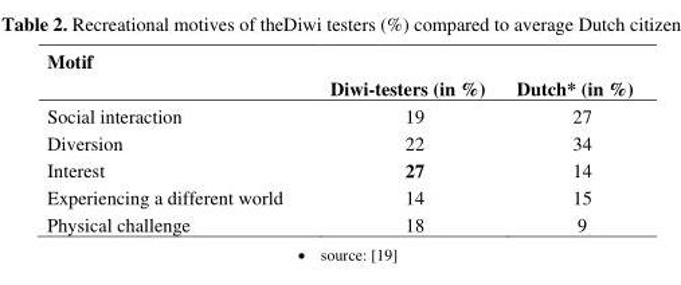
<table><thead><tr><td rowspan="2">Motif</td><td rowspan="2">Diwi-testers (in %)</td><td rowspan="2">Dutch* (in %)</td></tr><tr></tr></thead><tbody><tr><td>Social interaction</td><td>19</td><td>27</td></tr><tr><td>Diversion</td><td>22</td><td>34</td></tr><tr><td>Interest</td><td>27</td><td>14</td></tr><tr><td>Experiencing a different world</td><td>14</td><td>15</td></tr><tr><td>Physical challenge</td><td>18</td><td>9</td></tr></tbody></table>